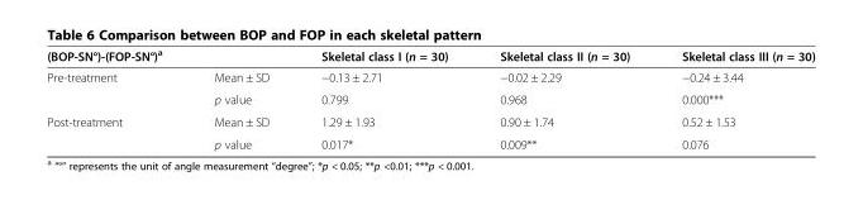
<table><thead><tr><td>(BOP-SN°)-(FOP-SN°)<sup>a</sup></td><td></td><td>Skeletal class I (n = 30)</td><td>Skeletal class II (n = 30)</td><td>Skeletal class III (n = 30)</td></tr></thead><tbody><tr><td rowspan="2">Pre-treatment</td><td>Mean ± SD</td><td>−0.13 ± 2.71</td><td>−0.02 ± 2.29</td><td>−0.24 ± 3.44</td></tr><tr><td>p value</td><td>0.799</td><td>0.968</td><td>0.000***</td></tr><tr><td rowspan="2">Post-treatment</td><td>Mean ± SD</td><td>1.29 ± 1.93</td><td>0.90 ± 1.74</td><td>0.52 ± 1.53</td></tr><tr><td>p value</td><td>0.017*</td><td>0.009**</td><td>0.076</td></tr></tbody></table>